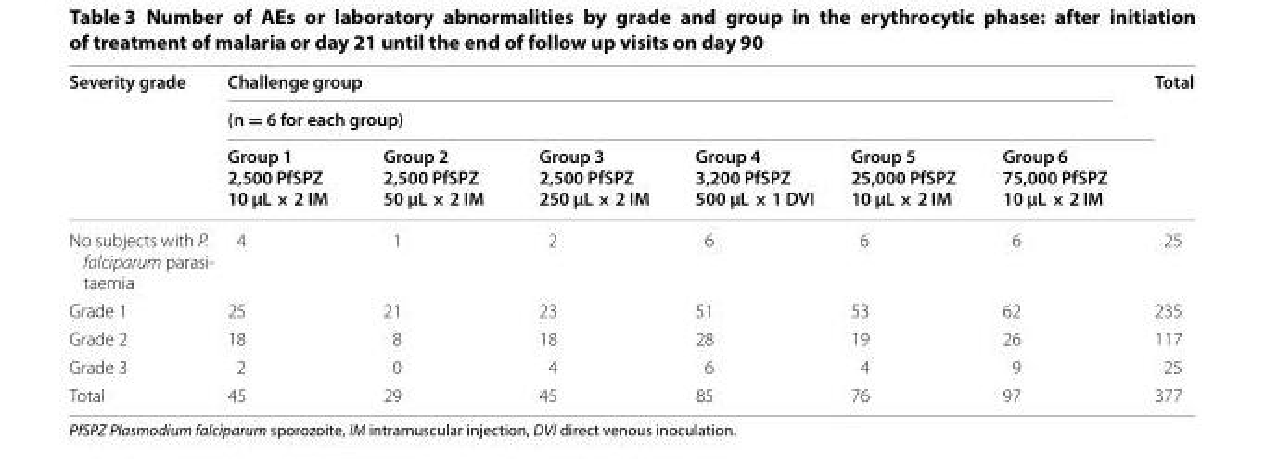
<table><thead><tr><td rowspan="3">Severity grade</td><td rowspan="2" colspan="6">Challenge group (n = 6 for each group)</td><td rowspan="3">Total</td></tr><tr></tr><tr><td>Group 1 2,500 PfSPZ 10 µL × 2 IM</td><td>Group 2 2,500 PfSPZ 50 µL × 2 IM</td><td>Group 3 2,500 PfSPZ 250 µL × 2 IM</td><td>Group 4 3,200 PfSPZ 500 µL × 1 DVI</td><td>Group 5 25,000 PfSPZ 10 µL × 2 IM</td><td>Group 6 75,000 PfSPZ 10 µL × 2 IM</td></tr></thead><tbody><tr><td>No subjects with P. falciparum parasi‑ taemia</td><td>4</td><td>1</td><td>2</td><td>6</td><td>6</td><td>6</td><td>25</td></tr><tr><td>Grade 1</td><td>25</td><td>21</td><td>23</td><td>51</td><td>53</td><td>62</td><td>235</td></tr><tr><td>Grade 2</td><td>18</td><td>8</td><td>18</td><td>28</td><td>19</td><td>26</td><td>117</td></tr><tr><td>Grade 3</td><td>2</td><td>0</td><td>4</td><td>6</td><td>4</td><td>9</td><td>25</td></tr><tr><td>Total</td><td>45</td><td>29</td><td>45</td><td>85</td><td>76</td><td>97</td><td>377</td></tr></tbody></table>